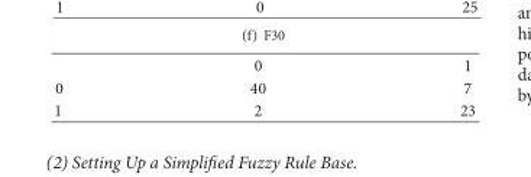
<table><thead><tr><td></td><td>0</td><td>1</td></tr></thead><tbody><tr><td>0</td><td>40</td><td>7</td></tr><tr><td>1</td><td>2</td><td>23</td></tr></tbody></table>